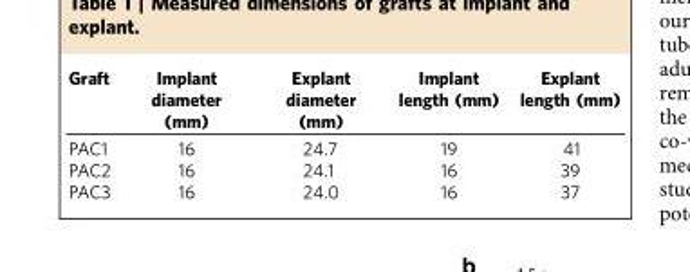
<table><thead><tr><td>Graft</td><td>Implant diameter (mm)</td><td>Explant diameter (mm)</td><td>Implant length (mm)</td><td>Explant length (mm)</td></tr></thead><tbody><tr><td>PAC1</td><td>16</td><td>24.7</td><td>19</td><td>41</td></tr><tr><td>PAC2</td><td>16</td><td>24.1</td><td>16</td><td>39</td></tr><tr><td>PAC3</td><td>16</td><td>24.0</td><td>16</td><td>37</td></tr></tbody></table>